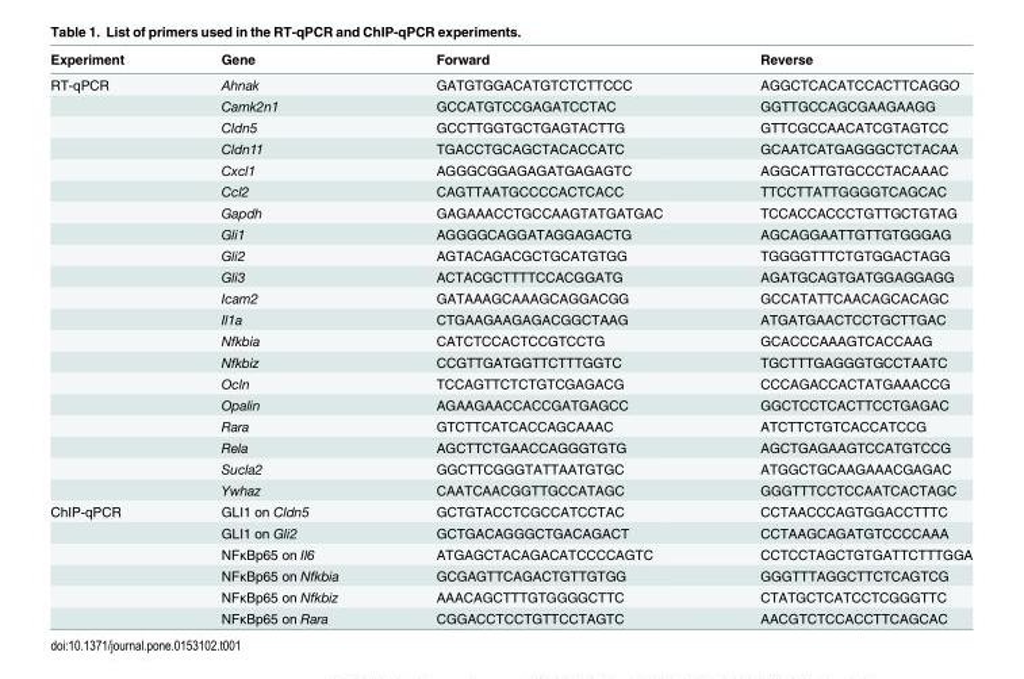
<table><thead><tr><td>Experiment</td><td>Gene</td><td>Forward</td><td>Reverse</td></tr></thead><tbody><tr><td rowspan="20">RT-qPCR</td><td>Ahnak</td><td>GATGTGGACATGTCTCTTCCC</td><td>AGGCTCACATCCACTTCAGGO</td></tr><tr><td>Camk2n1</td><td>GCCATGTCCGAGATCCTAC</td><td>GGTTGCCAGCGAAGAAGG</td></tr><tr><td>Cldn5</td><td>GCCTTGGTGCTGAGTACTTG</td><td>GTTCGCCAACATCGTAGTCC</td></tr><tr><td>Cldn11</td><td>TGACCTGCAGCTACACCATC</td><td>GCAATCATGAGGGCTCTACAA</td></tr><tr><td>Cxcl1</td><td>AGGGCGGAGAGATGAGAGTC</td><td>AGGCATTGTGCCCTACAAAC</td></tr><tr><td>Ccl2</td><td>CAGTTAATGCCCCACTCACC</td><td>TTCCTTATTGGGGTCAGCAC</td></tr><tr><td>Gapdh</td><td>GAGAAACCTGCCAAGTATGATGAC</td><td>TCCACCACCCTGTTGCTGTAG</td></tr><tr><td>Gli1</td><td>AGGGGCAGGATAGGAGACTG</td><td>AGCAGGAATTGTTGTGGGAG</td></tr><tr><td>Gli2</td><td>AGTACAGACGCTGCATGTGG</td><td>TGGGGTTTCTGTGGACTAGG</td></tr><tr><td>Gli3</td><td>ACTACGCTTTTCCACGGATG</td><td>AGATGCAGTGATGGAGGAGG</td></tr><tr><td>Icam2</td><td>GATAAAGCAAAGCAGGACGG</td><td>GCCATATTCAACAGCACAGC</td></tr><tr><td>Il1a</td><td>CTGAAGAAGAGACGGCTAAG</td><td>ATGATGAACTCCTGCTTGAC</td></tr><tr><td>Nfkbia</td><td>CATCTCCACTCCGTCCTG</td><td>GCACCCAAAGTCACCAAG</td></tr><tr><td>Nfkbiz</td><td>CCGTTGATGGTTCTTTGGTC</td><td>TGCTTTGAGGGTGCCTAATC</td></tr><tr><td>Ocln</td><td>TCCAGTTCTCTGTCGAGACG</td><td>CCCAGACCACTATGAAACCG</td></tr><tr><td>Opalin</td><td>AGAAGAACCACCGATGAGCC</td><td>GGCTCCTCACTTCCTGAGAC</td></tr><tr><td>Rara</td><td>GTCTTCATCACCAGCAAAC</td><td>ATCTTCTGTCACCATCCG</td></tr><tr><td>Rela</td><td>AGCTTCTGAACCAGGGTGTG</td><td>AGCTGAGAAGTCCATGTCCG</td></tr><tr><td>Sucla2</td><td>GGCTTCGGGTATTAATGTGC</td><td>ATGGCTGCAAGAAACGAGAC</td></tr><tr><td>Ywhaz</td><td>CAATCAACGGTTGCCATAGC</td><td>GGGTTTCCTCCAATCACTAGC</td></tr><tr><td rowspan="6">ChIP-qPCR</td><td>GLI1 on Cldn5</td><td>GCTGTACCTCGCCATCCTAC</td><td>CCTAACCCAGTGGACCTTTC</td></tr><tr><td>GLI1 on Gli2</td><td>GCTGACAGGGCTGACAGACT</td><td>CCTAAGCAGATGTCCCCAAA</td></tr><tr><td>NFκBp65 on Il6</td><td>ATGAGCTACAGACATCCCCAGTC</td><td>CCTCCTAGCTGTGATTCTTTGGA</td></tr><tr><td>NFκBp65 on Nfkbia</td><td>GCGAGTTCAGACTGTTGTGG</td><td>GGGTTTAGGCTTCTCAGTCG</td></tr><tr><td>NFκBp65 on Nfkbiz</td><td>AAACAGCTTTGTGGGGCTTC</td><td>CTATGCTCATCCTCGGGTTC</td></tr><tr><td>NFκBp65 on Rara</td><td>CGGACCTCCTGTTCCTAGTC</td><td>AACGTCTCCACCTTCAGCAC</td></tr></tbody></table>